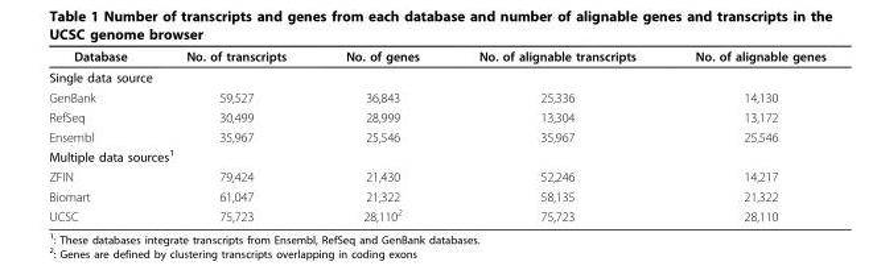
<table><thead><tr><td>Database</td><td>No. of transcripts</td><td>No. of genes</td><td>No. of alignable transcripts</td><td>No. of alignable genes</td></tr></thead><tbody><tr><td colspan="5">Single data source</td></tr><tr><td>GenBank</td><td>59,527</td><td>36,843</td><td>25,336</td><td>14,130</td></tr><tr><td>RefSeq</td><td>30,499</td><td>28,999</td><td>13,304</td><td>13,172</td></tr><tr><td>Ensembl</td><td>35,967</td><td>25,546</td><td>35,967</td><td>25,546</td></tr><tr><td colspan="5">Multiple data sources<sup>1</sup></td></tr><tr><td>ZFIN</td><td>79,424</td><td>21,430</td><td>52,246</td><td>14,217</td></tr><tr><td>Biomart</td><td>61,047</td><td>21,322</td><td>58,135</td><td>21,322</td></tr><tr><td>UCSC</td><td>75,723</td><td>28,110<sup>2</sup></td><td>75,723</td><td>28,110</td></tr></tbody></table>